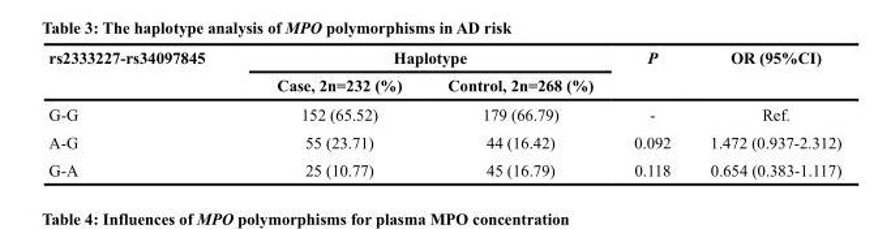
<table><thead><tr><td rowspan="2">rs2333227-rs34097845</td><td colspan="2">Haplotype</td><td rowspan="2">P</td><td rowspan="2">OR (95%CI)</td></tr><tr><td>Case, 2n=232 (%)</td><td>Control, 2n=268 (%)</td></tr></thead><tbody><tr><td>G-G</td><td>152 (65.52)</td><td>179 (66.79)</td><td>-</td><td>Ref.</td></tr><tr><td>A-G</td><td>55 (23.71)</td><td>44 (16.42)</td><td>0.092</td><td>1.472 (0.937-2.312)</td></tr><tr><td>G-A</td><td>25 (10.77)</td><td>45 (16.79)</td><td>0.118</td><td>0.654 (0.383-1.117)</td></tr></tbody></table>